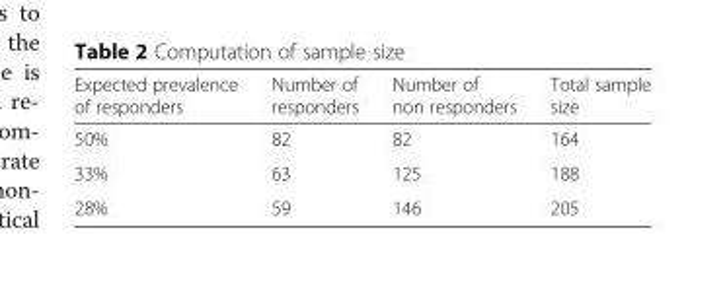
<table><thead><tr><td>Expected prevalence of responders</td><td>Number of responders</td><td>Number of non responders</td><td>Total sample size</td></tr></thead><tbody><tr><td>50%</td><td>82</td><td>82</td><td>164</td></tr><tr><td>33%</td><td>63</td><td>125</td><td>188</td></tr><tr><td>28%</td><td>59</td><td>146</td><td>205</td></tr></tbody></table>